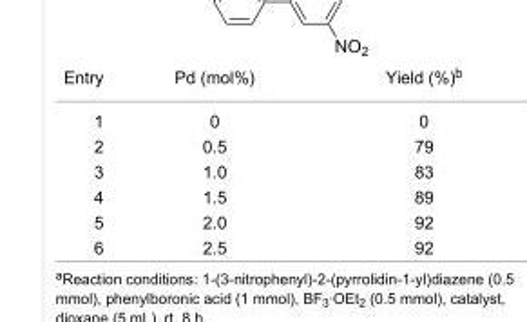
<table><tbody><tr><td>Entry</td><td>Pd (mol%)</td><td>Yield (%)b</td></tr><tr><td>1</td><td>0</td><td>0</td></tr><tr><td>2</td><td>0.5</td><td>79</td></tr><tr><td>3</td><td>1.0</td><td>83</td></tr><tr><td>4</td><td>1.5</td><td>89</td></tr><tr><td>5</td><td>2.0</td><td>92</td></tr><tr><td>6</td><td>2.5</td><td>92</td></tr></tbody></table>